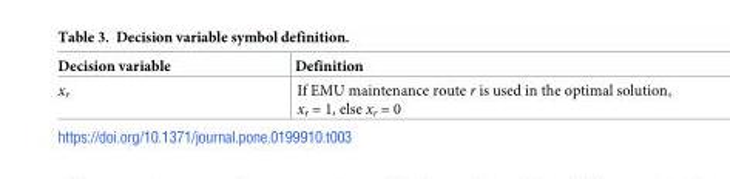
<table><thead><tr><td>Decision variable</td><td>Definition</td></tr></thead><tbody><tr><td>x<sub>r</sub></td><td>If EMU maintenance route r is used in the optimal solution, x<sub>r</sub> = 1, else x<sub>r</sub> = 0</td></tr></tbody></table>